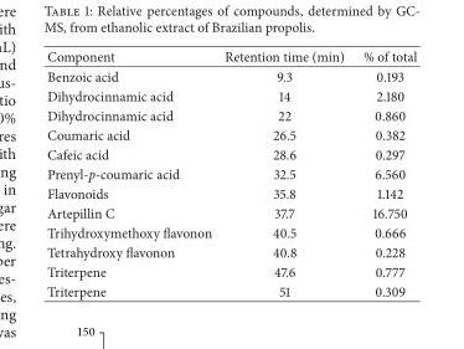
<table><thead><tr><td>Component</td><td>Retention time (min)</td><td>% of total</td></tr></thead><tbody><tr><td>Benzoic acid</td><td>9.3</td><td>0.193</td></tr><tr><td>Dihydrocinnamic acid</td><td>14</td><td>2.180</td></tr><tr><td>Dihydrocinnamic acid</td><td>22</td><td>0.860</td></tr><tr><td>Coumaric acid</td><td>26.5</td><td>0.382</td></tr><tr><td>Cafeic acid</td><td>28.6</td><td>0.297</td></tr><tr><td>Prenyl-p-coumaric acid</td><td>32.5</td><td>6.560</td></tr><tr><td>Flavonoids</td><td>35.8</td><td>1.142</td></tr><tr><td>Artepillin C</td><td>37.7</td><td>16.750</td></tr><tr><td>Trihydroxymethoxy flavonon</td><td>40.5</td><td>0.666</td></tr><tr><td>Tetrahydroxy flavonon</td><td>40.8</td><td>0.228</td></tr><tr><td>Triterpene</td><td>47.6</td><td>0.777</td></tr><tr><td>Triterpene</td><td>51</td><td>0.309</td></tr></tbody></table>